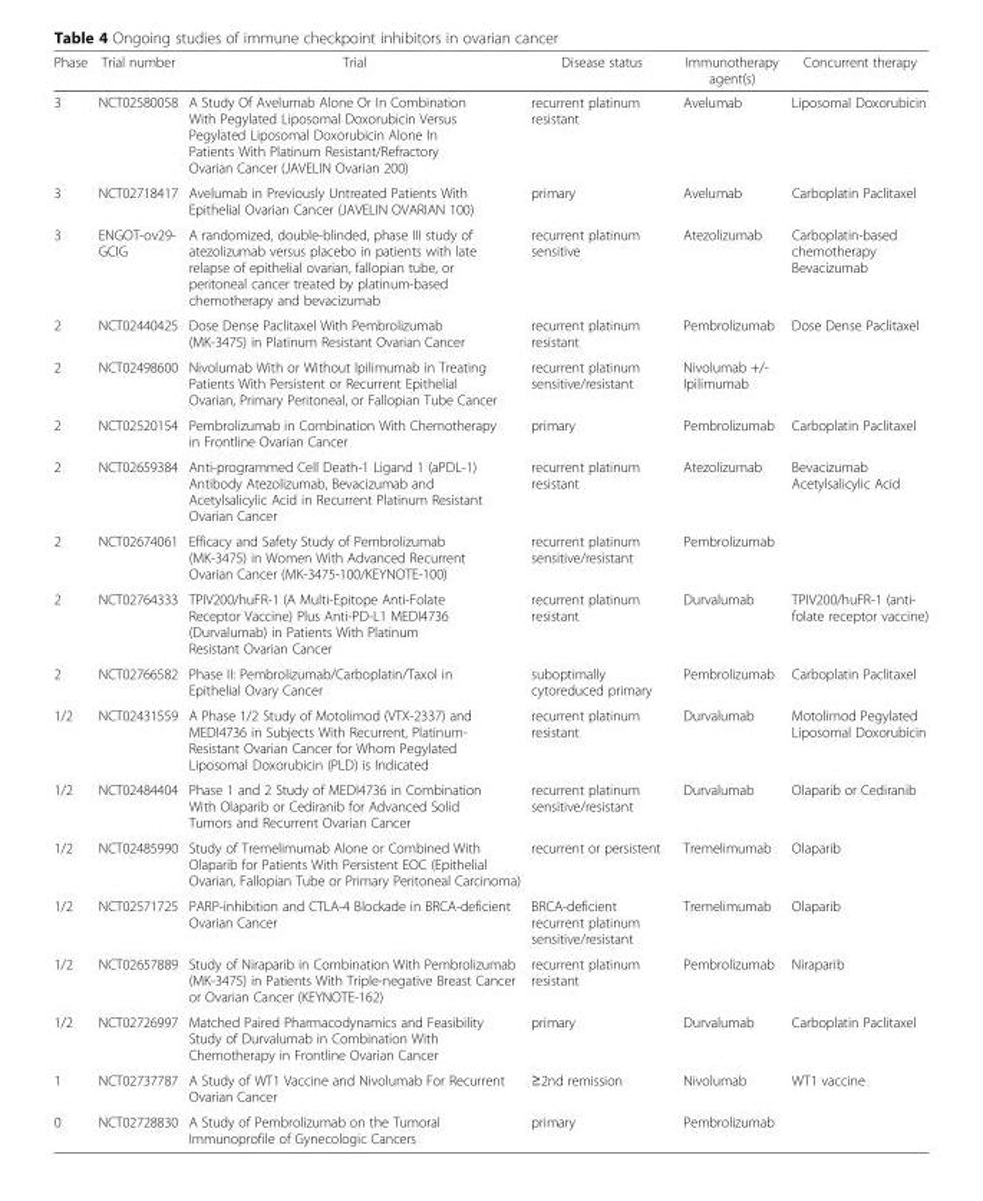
<table><thead><tr><td>Phase</td><td>Trial number</td><td>Trial</td><td>Disease status</td><td>Immunotherapy agent(s)</td><td>Concurrent therapy</td></tr></thead><tbody><tr><td>3</td><td>NCT02580058</td><td>A Study Of Avelumab Alone Or In Combination With Pegylated Liposomal Doxorubicin Versus Pegylated Liposomal Doxorubicin Alone In Patients With Platinum Resistant/Refractory Ovarian Cancer (JAVELIN Ovarian 200)</td><td>recurrent platinum resistant</td><td>Avelumab</td><td>Liposomal Doxorubicin</td></tr><tr><td>3</td><td>NCT02718417</td><td>Avelumab in Previously Untreated Patients With Epithelial Ovarian Cancer (JAVELIN OVARIAN 100)</td><td>primary</td><td>Avelumab</td><td>Carboplatin Paclitaxel</td></tr><tr><td>3</td><td>ENGOT-ov29- GCIG</td><td>A randomized, double-blinded, phase III study of atezolizumab versus placebo in patients with late relapse of epithelial ovarian, fallopian tube, or peritoneal cancer treated by platinum-based chemotherapy and bevacizumab</td><td>recurrent platinum sensitive</td><td>Atezolizumab</td><td>Carboplatin-based chemotherapy Bevacizumab</td></tr><tr><td>2</td><td>NCT02440425</td><td>Dose Dense Paclitaxel With Pembrolizumab (MK-3475) in Platinum Resistant Ovarian Cancer</td><td>recurrent platinum resistant</td><td>Pembrolizumab</td><td>Dose Dense Paclitaxel</td></tr><tr><td>2</td><td>NCT02498600</td><td>Nivolumab With or Without Ipilimumab in Treating Patients With Persistent or Recurrent Epithelial Ovarian, Primary Peritoneal, or Fallopian Tube Cancer</td><td>recurrent platinum sensitive/resistant</td><td>Nivolumab +/- Ipilimumab</td><td></td></tr><tr><td>2</td><td>NCT02520154</td><td>Pembrolizumab in Combination With Chemotherapy in Frontline Ovarian Cancer</td><td>primary</td><td>Pembrolizumab</td><td>Carboplatin Paclitaxel</td></tr><tr><td>2</td><td>NCT02659384</td><td>Anti-programmed Cell Death-1 Ligand 1 (aPDL-1) Antibody Atezolizumab, Bevacizumab and Acetylsalicylic Acid in Recurrent Platinum Resistant Ovarian Cancer</td><td>recurrent platinum resistant</td><td>Atezolizumab</td><td>Bevacizumab Acetylsalicylic Acid</td></tr><tr><td>2</td><td>NCT02674061</td><td>Efficacy and Safety Study of Pembrolizumab (MK-3475) in Women With Advanced Recurrent Ovarian Cancer (MK-3475-100/KEYNOTE-100)</td><td>recurrent platinum sensitive/resistant</td><td>Pembrolizumab</td><td></td></tr><tr><td>2</td><td>NCT02764333</td><td>TPIV200/huFR-1 (A Multi-Epitope Anti-Folate Receptor Vaccine) Plus Anti-PD-L1 MEDI4736 (Durvalumab) in Patients With Platinum Resistant Ovarian Cancer</td><td>recurrent platinum resistant</td><td>Durvalumab</td><td>TPIV200/huFR-1 (anti- folate receptor vaccine)</td></tr><tr><td>2</td><td>NCT02766582</td><td>Phase II: Pembrolizumab/Carboplatin/Taxol in Epithelial Ovary Cancer</td><td>suboptimally cytoreduced primary</td><td>Pembrolizumab</td><td>Carboplatin Paclitaxel</td></tr><tr><td>1/2</td><td>NCT02431559</td><td>A Phase 1/2 Study of Motolimod (VTX-2337) and MEDI4736 in Subjects With Recurrent, Platinum- Resistant Ovarian Cancer for Whom Pegylated Liposomal Doxorubicin (PLD) is Indicated</td><td>recurrent platinum resistant</td><td>Durvalumab</td><td>Motolimod Pegylated Liposomal Doxorubicin</td></tr><tr><td>1/2</td><td>NCT02484404</td><td>Phase 1 and 2 Study of MEDI4736 in Combination With Olaparib or Cediranib for Advanced Solid Tumors and Recurrent Ovarian Cancer</td><td>recurrent platinum sensitive/resistant</td><td>Durvalumab</td><td>Olaparib or Cediranib</td></tr><tr><td>1/2</td><td>NCT02485990</td><td>Study of Tremelimumab Alone or Combined With Olaparib for Patients With Persistent EOC (Epithelial Ovarian, Fallopian Tube or Primary Peritoneal Carcinoma)</td><td>recurrent or persistent</td><td>Tremelimumab</td><td>Olaparib</td></tr><tr><td>1/2</td><td>NCT02571725</td><td>PARP-inhibition and CTLA-4 Blockade in BRCA-deficient Ovarian Cancer</td><td>BRCA-deficient recurrent platinum sensitive/resistant</td><td>Tremelimumab</td><td>Olaparib</td></tr><tr><td>1/2</td><td>NCT02657889</td><td>Study of Niraparib in Combination With Pembrolizumab (MK-3475) in Patients With Triple-negative Breast Cancer or Ovarian Cancer (KEYNOTE-162)</td><td>recurrent platinum resistant</td><td>Pembrolizumab</td><td>Niraparib</td></tr><tr><td>1/2</td><td>NCT02726997</td><td>Matched Paired Pharmacodynamics and Feasibility Study of Durvalumab in Combination With Chemotherapy in Frontline Ovarian Cancer</td><td>primary</td><td>Durvalumab</td><td>Carboplatin Paclitaxel</td></tr><tr><td>1</td><td>NCT02737787</td><td>A Study of WT1 Vaccine and Nivolumab For Recurrent Ovarian Cancer</td><td>≥2nd remission</td><td>Nivolumab</td><td>WT1 vaccine</td></tr><tr><td>0</td><td>NCT02728830</td><td>A Study of Pembrolizumab on the Tumoral Immunoprofile of Gynecologic Cancers</td><td>primary</td><td>Pembrolizumab</td><td></td></tr></tbody></table>